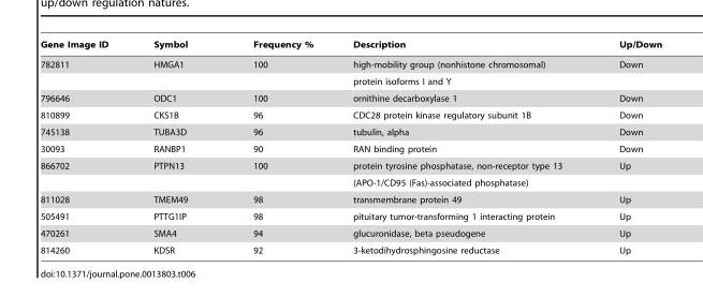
<table><thead><tr><td>Gene Image ID</td><td>Symbol</td><td>Frequency %</td><td>Description</td><td>Up/Down</td></tr></thead><tbody><tr><td rowspan="2">782811</td><td>HMGA1</td><td>100</td><td>high-mobility group (nonhistone chromosomal)</td><td>Down</td></tr><tr><td></td><td></td><td>protein isoforms I and Y</td><td></td></tr><tr><td>796646</td><td>ODC1</td><td>100</td><td>ornithine decarboxylase 1</td><td>Down</td></tr><tr><td>810899</td><td>CKS1B</td><td>96</td><td>CDC28 protein kinase regulatory subunit 1B</td><td>Down</td></tr><tr><td>745138</td><td>TUBA3D</td><td>96</td><td>tubulin, alpha</td><td>Down</td></tr><tr><td>30093</td><td>RANBP1</td><td>90</td><td>RAN binding protein</td><td>Down</td></tr><tr><td rowspan="2">866702</td><td>PTPN13</td><td>100</td><td>protein tyrosine phosphatase, non-receptor type 13</td><td>Up</td></tr><tr><td></td><td></td><td>(APO-1/CD95 (Fas)-associated phosphatase)</td><td></td></tr><tr><td>811028</td><td>TMEM49</td><td>98</td><td>transmembrane protein 49</td><td>Up</td></tr><tr><td>505491</td><td>PTTG1IP</td><td>98</td><td>pituitary tumor-transforming 1 interacting protein</td><td>Up</td></tr><tr><td>470261</td><td>SMA4</td><td>94</td><td>glucuronidase, beta pseudogene</td><td>Up</td></tr><tr><td>814260</td><td>KDSR</td><td>92</td><td>3-ketodihydrosphingosine reductase</td><td>Up</td></tr></tbody></table>